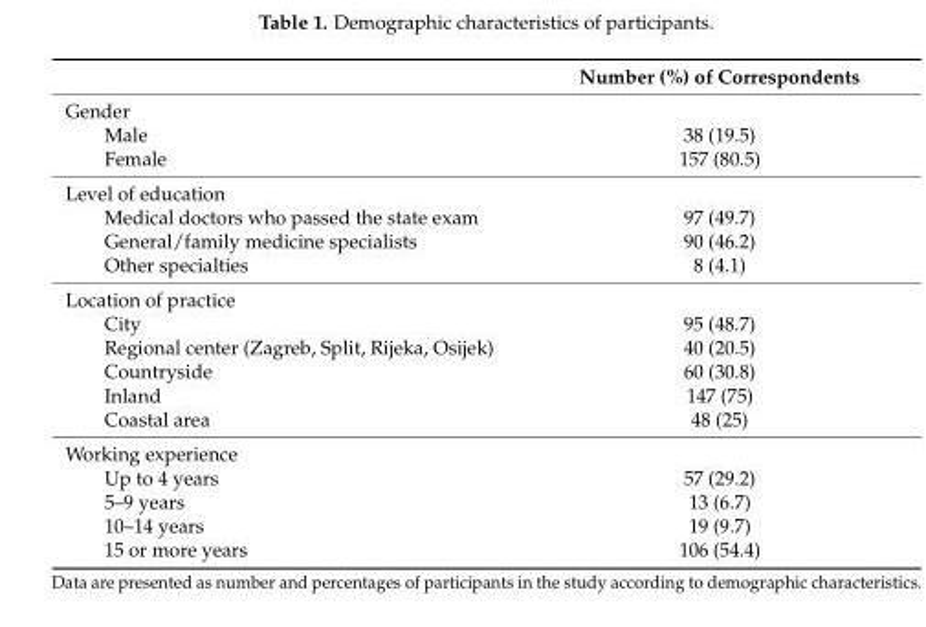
<table><thead><tr><td></td><td>Number (%) of Correspondents</td></tr></thead><tbody><tr><td colspan="2">Gender</td></tr><tr><td>Male</td><td>38 (19.5)</td></tr><tr><td>Female</td><td>157 (80.5)</td></tr><tr><td colspan="2">Level of education</td></tr><tr><td>Medical doctors who passed the state exam</td><td>97 (49.7)</td></tr><tr><td>General/family medicine specialists</td><td>90 (46.2)</td></tr><tr><td>Other specialties</td><td>8 (4.1)</td></tr><tr><td colspan="2">Location of practice</td></tr><tr><td>City</td><td>95 (48.7)</td></tr><tr><td>Regional center (Zagreb, Split, Rijeka, Osijek)</td><td>40 (20.5)</td></tr><tr><td>Countryside</td><td>60 (30.8)</td></tr><tr><td>Inland</td><td>147 (75)</td></tr><tr><td>Coastal area</td><td>48 (25)</td></tr><tr><td colspan="2">Working experience</td></tr><tr><td>Up to 4 years</td><td>57 (29.2)</td></tr><tr><td>5–9 years</td><td>13 (6.7)</td></tr><tr><td>10–14 years</td><td>19 (9.7)</td></tr><tr><td>15 or more years</td><td>106 (54.4)</td></tr></tbody></table>